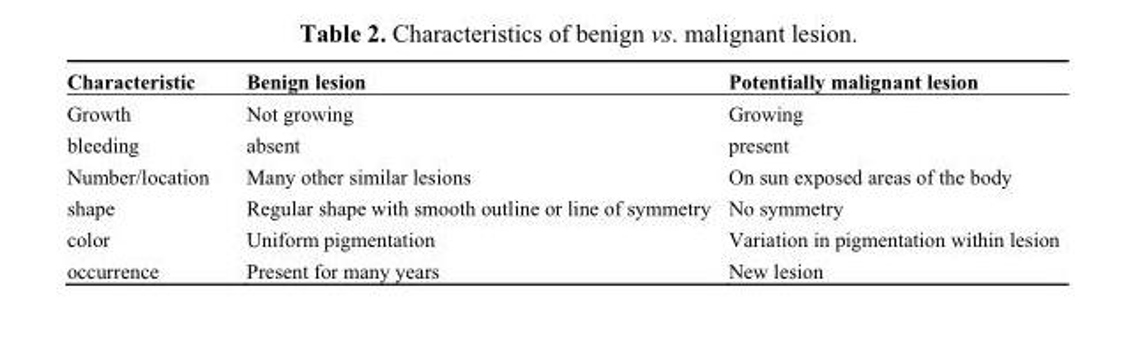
<table><thead><tr><td>Characteristic</td><td>Benign lesion</td><td>Potentially malignant lesion</td></tr></thead><tbody><tr><td>Growth</td><td>Not growing</td><td>Growing</td></tr><tr><td>bleeding</td><td>absent</td><td>present</td></tr><tr><td>Number/location</td><td>Many other similar lesions</td><td>On sun exposed areas of the body</td></tr><tr><td>shape</td><td>Regular shape with smooth outline or line of symmetry</td><td>No symmetry</td></tr><tr><td>color</td><td>Uniform pigmentation</td><td>Variation in pigmentation within lesion</td></tr><tr><td>occurrence</td><td>Present for many years</td><td>New lesion</td></tr></tbody></table>